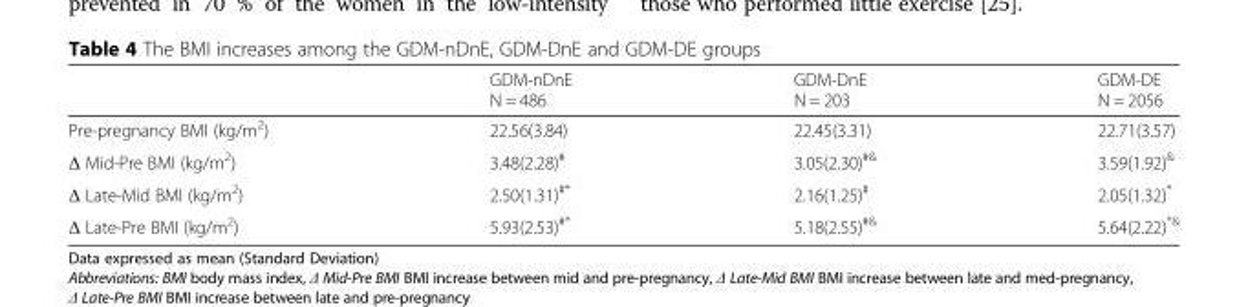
<table><thead><tr><td></td><td>GDM-nDnE N = 486</td><td>GDM-DnE N = 203</td><td>GDM-DE N = 2056</td></tr></thead><tbody><tr><td>Pre-pregnancy BMI (kg/m<sup>2</sup>)</td><td>22.56(3.84)</td><td>22.45(3.31)</td><td>22.71(3.57)</td></tr><tr><td>Δ Mid-Pre BMI (kg/m<sup>2</sup>)</td><td>3.48(2.28)<sup>#</sup></td><td>3.05(2.30)<sup>#&amp;</sup></td><td>3.59(1.92)<sup>&amp;</sup></td></tr><tr><td>Δ Late-Mid BMI (kg/m<sup>2</sup>)</td><td>2.50(1.31)<sup>#*</sup></td><td>2.16(1.25)<sup>#</sup></td><td>2.05(1.32)*</td></tr><tr><td>Δ Late-Pre BMI (kg/m<sup>2</sup>)</td><td>5.93(2.53)<sup>#*</sup></td><td>5.18(2.55)<sup>#&amp;</sup></td><td>5.64(2.22)<sup>*&amp;</sup></td></tr></tbody></table>